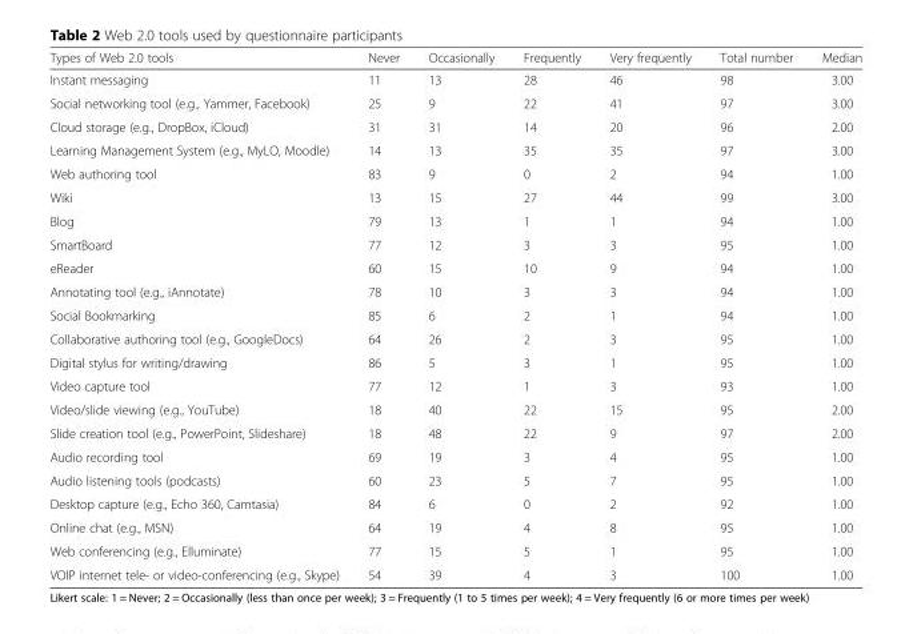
<table><thead><tr><td>Types of Web 2.0 tools</td><td>Never</td><td>Occasionally</td><td>Frequently</td><td>Very frequently</td><td>Total number</td><td>Median</td></tr></thead><tbody><tr><td>Instant messaging</td><td>11</td><td>13</td><td>28</td><td>46</td><td>98</td><td>3.00</td></tr><tr><td>Social networking tool (e.g., Yammer, Facebook)</td><td>25</td><td>9</td><td>22</td><td>41</td><td>97</td><td>3.00</td></tr><tr><td>Cloud storage (e.g., DropBox, iCloud)</td><td>31</td><td>31</td><td>14</td><td>20</td><td>96</td><td>2.00</td></tr><tr><td>Learning Management System (e.g., MyLO, Moodle)</td><td>14</td><td>13</td><td>35</td><td>35</td><td>97</td><td>3.00</td></tr><tr><td>Web authoring tool</td><td>83</td><td>9</td><td>0</td><td>2</td><td>94</td><td>1.00</td></tr><tr><td>Wiki</td><td>13</td><td>15</td><td>27</td><td>44</td><td>99</td><td>3.00</td></tr><tr><td>Blog</td><td>79</td><td>13</td><td>1</td><td>1</td><td>94</td><td>1.00</td></tr><tr><td>SmartBoard</td><td>77</td><td>12</td><td>3</td><td>3</td><td>95</td><td>1.00</td></tr><tr><td>eReader</td><td>60</td><td>15</td><td>10</td><td>9</td><td>94</td><td>1.00</td></tr><tr><td>Annotating tool (e.g., iAnnotate)</td><td>78</td><td>10</td><td>3</td><td>3</td><td>94</td><td>1.00</td></tr><tr><td>Social Bookmarking</td><td>85</td><td>6</td><td>2</td><td>1</td><td>94</td><td>1.00</td></tr><tr><td>Collaborative authoring tool (e.g., GoogleDocs)</td><td>64</td><td>26</td><td>2</td><td>3</td><td>95</td><td>1.00</td></tr><tr><td>Digital stylus for writing/drawing</td><td>86</td><td>5</td><td>3</td><td>1</td><td>95</td><td>1.00</td></tr><tr><td>Video capture tool</td><td>77</td><td>12</td><td>1</td><td>3</td><td>93</td><td>1.00</td></tr><tr><td>Video/slide viewing (e.g., YouTube)</td><td>18</td><td>40</td><td>22</td><td>15</td><td>95</td><td>2.00</td></tr><tr><td>Slide creation tool (e.g., PowerPoint, Slideshare)</td><td>18</td><td>48</td><td>22</td><td>9</td><td>97</td><td>2.00</td></tr><tr><td>Audio recording tool</td><td>69</td><td>19</td><td>3</td><td>4</td><td>95</td><td>1.00</td></tr><tr><td>Audio listening tools (podcasts)</td><td>60</td><td>23</td><td>5</td><td>7</td><td>95</td><td>1.00</td></tr><tr><td>Desktop capture (e.g., Echo 360, Camtasia)</td><td>84</td><td>6</td><td>0</td><td>2</td><td>92</td><td>1.00</td></tr><tr><td>Online chat (e.g., MSN)</td><td>64</td><td>19</td><td>4</td><td>8</td><td>95</td><td>1.00</td></tr><tr><td>Web conferencing (e.g., Elluminate)</td><td>77</td><td>15</td><td>5</td><td>1</td><td>95</td><td>1.00</td></tr><tr><td>VOIP internet tele- or video-conferencing (e.g., Skype)</td><td>54</td><td>39</td><td>4</td><td>3</td><td>100</td><td>1.00</td></tr></tbody></table>